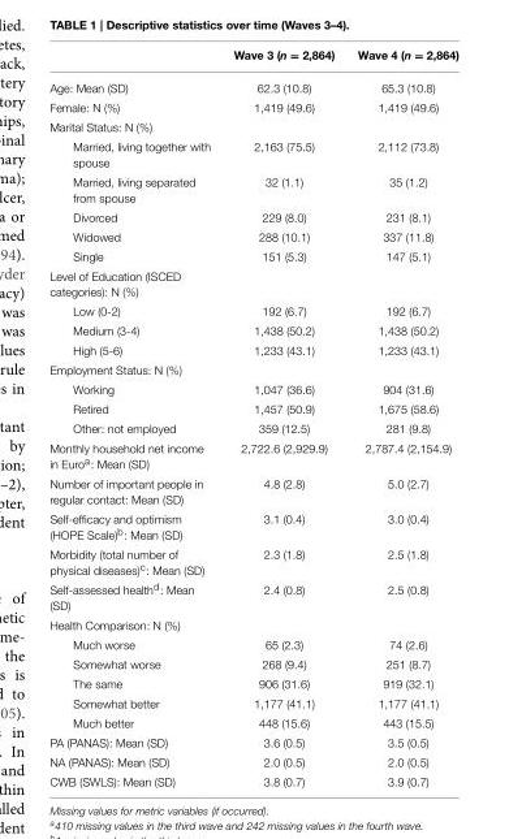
<table><thead><tr><td></td><td>Wave 3 (n = 2,864)</td><td>Wave 4 (n = 2,864)</td></tr></thead><tbody><tr><td>Age: Mean (SD)</td><td>62.3 (10.8)</td><td>65.3 (10.8)</td></tr><tr><td>Female: N (%)</td><td>1,419 (49.6)</td><td>1,419 (49.6)</td></tr><tr><td colspan="3">Marital Status: N (%)</td></tr><tr><td>Married, living together with spouse</td><td>2,163 (75.5)</td><td>2,112 (73.8)</td></tr><tr><td>Married, living separated from spouse</td><td>32 (1.1)</td><td>35 (1.2)</td></tr><tr><td>Divorced</td><td>229 (8.0)</td><td>231 (8.1)</td></tr><tr><td>Widowed</td><td>288 (10.1)</td><td>337 (11.8)</td></tr><tr><td>Single</td><td>151 (5.3)</td><td>147 (5.1)</td></tr><tr><td colspan="3">Level of Education (ISCED categories): N (%)</td></tr><tr><td>Low (0-2)</td><td>192 (6.7)</td><td>192 (6.7)</td></tr><tr><td>Medium (3-4)</td><td>1,438 (50.2)</td><td>1,438 (50.2)</td></tr><tr><td>High (5-6)</td><td>1,233 (43.1)</td><td>1,233 (43.1)</td></tr><tr><td colspan="3">Employment Status: N (%)</td></tr><tr><td>Working</td><td>1,047 (36.6)</td><td>904 (31.6)</td></tr><tr><td>Retired</td><td>1,457 (50.9)</td><td>1,675 (58.6)</td></tr><tr><td>Other: not employed</td><td>359 (12.5)</td><td>281 (9.8)</td></tr><tr><td>Monthly household net income in Euro<sup>a</sup>: Mean (SD)</td><td>2,722.6 (2,929.9)</td><td>2,787.4 (2,154.9)</td></tr><tr><td>Number of important people in regular contact: Mean (SD)</td><td>4.8 (2.8)</td><td>5.0 (2.7)</td></tr><tr><td>Self-efficacy and optimism (HOPE Scale)<sup>b</sup>: Mean (SD)</td><td>3.1 (0.4)</td><td>3.0 (0.4)</td></tr><tr><td>Morbidity (total number of physical diseases)<sup>c</sup>: Mean (SD)</td><td>2.3 (1.8)</td><td>2.5 (1.8)</td></tr><tr><td>Self-assessed health<sup>d</sup>: Mean (SD)</td><td>2.4 (0.8)</td><td>2.5 (0.8)</td></tr><tr><td colspan="3">Health Comparison: N (%)</td></tr><tr><td>Much worse</td><td>65 (2.3)</td><td>74 (2.6)</td></tr><tr><td>Somewhat worse</td><td>268 (9.4)</td><td>251 (8.7)</td></tr><tr><td>The same</td><td>906 (31.6)</td><td>919 (32.1)</td></tr><tr><td>Somewhat better</td><td>1,177 (41.1)</td><td>1,177 (41.1)</td></tr><tr><td>Much better</td><td>448 (15.6)</td><td>443 (15.5)</td></tr><tr><td>PA (PANAS): Mean (SD)</td><td>3.6 (0.5)</td><td>3.5 (0.5)</td></tr><tr><td>NA (PANAS): Mean (SD)</td><td>2.0 (0.5)</td><td>2.0 (0.5)</td></tr><tr><td>CWB (SWLS): Mean (SD)</td><td>3.8 (0.7)</td><td>3.9 (0.7)</td></tr></tbody></table>